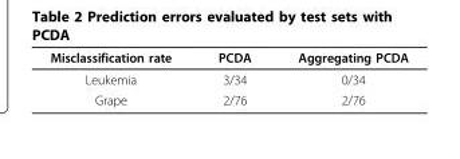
<table><thead><tr><td>Misclassification rate</td><td>PCDA</td><td>Aggregating PCDA</td></tr></thead><tbody><tr><td>Leukemia</td><td>3/34</td><td>0/34</td></tr><tr><td>Grape</td><td>2/76</td><td>2/76</td></tr></tbody></table>